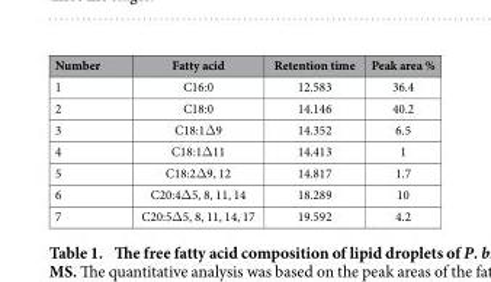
<table><thead><tr><td>Number</td><td>Fatty acid</td><td>Retention time</td><td>Peak area %</td></tr></thead><tbody><tr><td>1</td><td>C16:0</td><td>12.583</td><td>36.4</td></tr><tr><td>2</td><td>C18:0</td><td>14.146</td><td>40.2</td></tr><tr><td>3</td><td>C18:1Δ 9</td><td>14.352</td><td>6.5</td></tr><tr><td>4</td><td>C18:1Δ 11</td><td>14.413</td><td>1</td></tr><tr><td>5</td><td>C18:2Δ 9, 12</td><td>14.817</td><td>1.7</td></tr><tr><td>6</td><td>C20:4Δ 5, 8, 11, 14</td><td>18.289</td><td>10</td></tr><tr><td>7</td><td>C20:5Δ 5, 8, 11, 14, 17</td><td>19.592</td><td>4.2</td></tr></tbody></table>